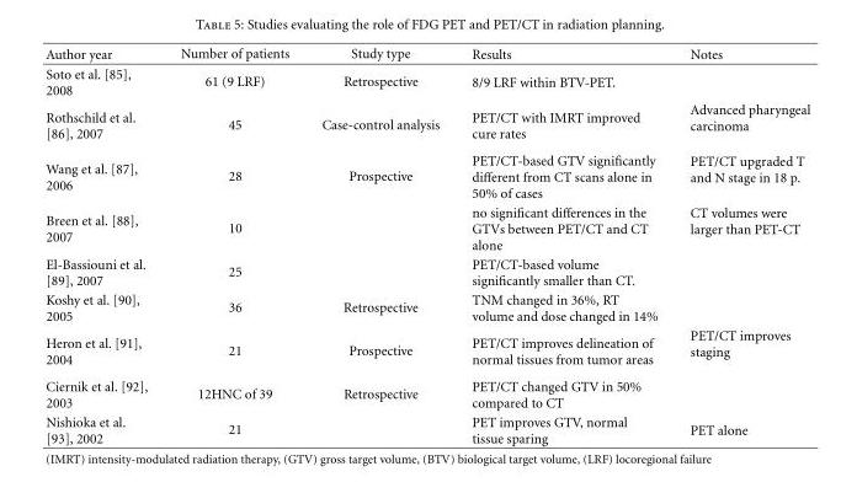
<table><thead><tr><td>Author year</td><td>Number of patients</td><td>Study type</td><td>Results</td><td>Notes</td></tr></thead><tbody><tr><td>Soto et al. [85], 2008</td><td>61 (9 LRF)</td><td>Retrospective</td><td>8/9 LRF within BTV-PET.</td><td></td></tr><tr><td>Rothschild et al. [86], 2007</td><td>45</td><td>Case-control analysis</td><td>PET/CT with IMRT improved cure rates</td><td>Advanced pharyngeal carcinoma</td></tr><tr><td>Wang et al. [87], 2006</td><td>28</td><td>Prospective</td><td>PET/CT-based GTV significantly different from CT scans alone in 50% of cases</td><td>PET/CT upgraded T and N stage in 18 p.</td></tr><tr><td>Breen et al. [88], 2007</td><td>10</td><td></td><td>no significant differences in the GTVs between PET/CT and CT alone</td><td>CT volumes were larger than PET-CT</td></tr><tr><td>El-Bassiouni et al. [89], 2007</td><td>25</td><td></td><td>PET/CT-based volume significantly smaller than CT.</td><td></td></tr><tr><td>Koshy et al. [90], 2005</td><td>36</td><td>Retrospective</td><td>TNM changed in 36%, RT volume and dose changed in 14%</td><td></td></tr><tr><td>Heron et al. [91], 2004</td><td>21</td><td>Prospective</td><td>PET/CT improves delineation of normal tissues from tumor areas</td><td>PET/CT improves staging</td></tr><tr><td>Ciernik et al. [92], 2003</td><td>12HNC of 39</td><td>Retrospective</td><td>PET/CT changed GTV in 50% compared to CT</td><td></td></tr><tr><td>Nishioka et al. [93], 2002</td><td>21</td><td></td><td>PET improves GTV, normal tissue sparing</td><td>PET alone</td></tr></tbody></table>